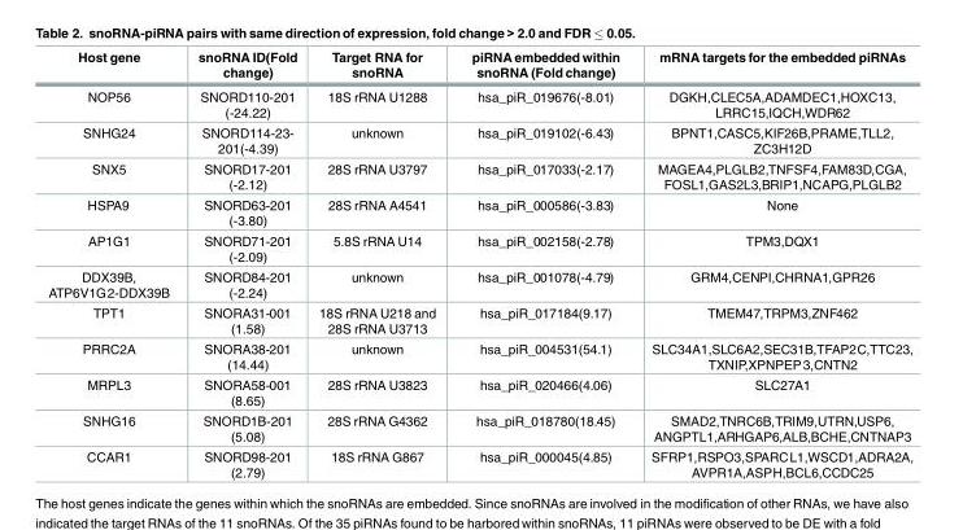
<table><thead><tr><td>Host gene</td><td>snoRNA ID(Fold change)</td><td>Target RNA for snoRNA</td><td>piRNA embedded within snoRNA (Fold change)</td><td>mRNA targets for the embedded piRNAs</td></tr></thead><tbody><tr><td>NOP56</td><td>SNORD110-201 (-24.22)</td><td>18S rRNA U1288</td><td>hsa_piR_019676(-8.01)</td><td>DGKH,CLEC5A,ADAMDEC1,HOXC13, LRRC15,IQCH,WDR62</td></tr><tr><td>SNHG24</td><td>SNORD114-23- 201(-4.39)</td><td>unknown</td><td>hsa_piR_019102(-6.43)</td><td>BPNT1,CASC5,KIF26B,PRAME,TLL2, ZC3H12D</td></tr><tr><td>SNX5</td><td>SNORD17-201 (-2.12)</td><td>28S rRNA U3797</td><td>hsa_piR_017033(-2.17)</td><td>MAGEA4,PLGLB2,TNFSF4,FAM83D,CGA, FOSL1,GAS2L3,BRIP1,NCAPG,PLGLB2</td></tr><tr><td>HSPA9</td><td>SNORD63-201 (-3.80)</td><td>28S rRNA A4541</td><td>hsa_piR_000586(-3.83)</td><td>None</td></tr><tr><td>AP1G1</td><td>SNORD71-201 (-2.09)</td><td>5.8S rRNA U14</td><td>hsa_piR_002158(-2.78)</td><td>TPM3,DQX1</td></tr><tr><td>DDX39B, ATP6V1G2-DDX39B</td><td>SNORD84-201 (-2.24)</td><td>unknown</td><td>hsa_piR_001078(-4.79)</td><td>GRM4,CENPI,CHRNA1,GPR26</td></tr><tr><td>TPT1</td><td>SNORA31-001 (1.58)</td><td>18S rRNA U218 and 28S rRNA U3713</td><td>hsa_piR_017184(9.17)</td><td>TMEM47,TRPM3,ZNF462</td></tr><tr><td>PRRC2A</td><td>SNORA38-201 (14.44)</td><td>unknown</td><td>hsa_piR_004531(54.1)</td><td>SLC34A1,SLC6A2,SEC31B,TFAP2C,TTC23, TXNIP,XPNPEP3,CNTN2</td></tr><tr><td>MRPL3</td><td>SNORA58-001 (8.65)</td><td>28S rRNA U3823</td><td>hsa_piR_020466(4.06)</td><td>SLC27A1</td></tr><tr><td>SNHG16</td><td>SNORD1B-201 (5.08)</td><td>28S rRNA G4362</td><td>hsa_piR_018780(18.45)</td><td>SMAD2,TNRC6B,TRIM9,UTRN,USP6, ANGPTL1,ARHGAP6,ALB,BCHE,CNTNAP3</td></tr><tr><td>CCAR1</td><td>SNORD98-201 (2.79)</td><td>18S rRNA G867</td><td>hsa_piR_000045(4.85)</td><td>SFRP1,RSPO3,SPARCL1,WSCD1,ADRA2A, AVPR1A,ASPH,BCL6,CCDC25</td></tr></tbody></table>